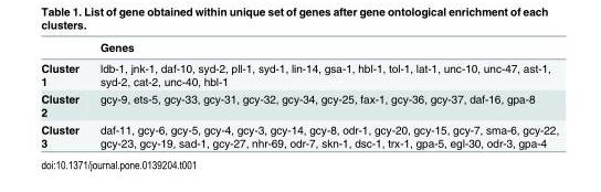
<table><thead><tr><td></td><td>Genes</td></tr></thead><tbody><tr><td>Cluster 1</td><td>ldb-1, jnk-1, daf-10, syd-2, pll-1, syd-1, lin-14, gsa-1, hbl-1, tol-1, lat-1, unc-10, unc-47, ast-1, syd-2, cat-2, unc-40, hbl-1</td></tr><tr><td>Cluster 2</td><td>gcy-9, ets-5, gcy-33, gcy-31, gcy-32, gcy-34, gcy-25, fax-1, gcy-36, gcy-37, daf-16, gpa-8</td></tr><tr><td>Cluster 3</td><td>daf-11, gcy-6, gcy-5, gcy-4, gcy-3, gcy-14, gcy-8, odr-1, gcy-20, gcy-15, gcy-7, sma-6, gcy-22, gcy-23, gcy-19, sad-1, gcy-27, nhr-69, odr-7, skn-1, dsc-1, trx-1, gpa-5, egl-30, odr-3, gpa-4</td></tr></tbody></table>